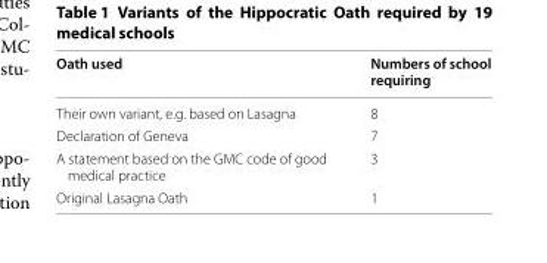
<table><thead><tr><td>Oath used</td><td>Numbers of school requiring</td></tr></thead><tbody><tr><td>Their own variant, e.g. based on Lasagna</td><td>8</td></tr><tr><td>Declaration of Geneva</td><td>7</td></tr><tr><td>A statement based on the GMC code of good medical practice</td><td>3</td></tr><tr><td>Original Lasagna Oath</td><td>1</td></tr></tbody></table>